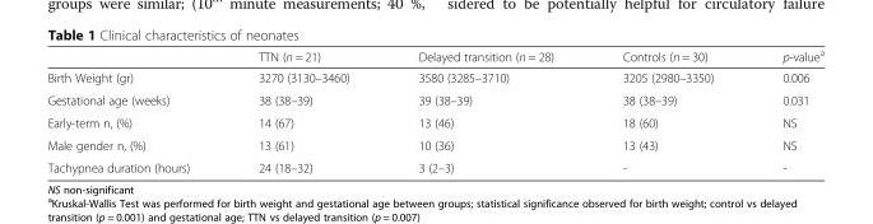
<table><thead><tr><td></td><td>TTN (n = 21)</td><td>Delayed transition (n = 28)</td><td>Controls (n = 30)</td><td>p-value<sup>a</sup></td></tr></thead><tbody><tr><td>Birth Weight (gr)</td><td>3270 (3130–3460)</td><td>3580 (3285–3710)</td><td>3205 (2980–3350)</td><td>0.006</td></tr><tr><td>Gestational age (weeks)</td><td>38 (38–39)</td><td>39 (38–39)</td><td>38 (38–39)</td><td>0.031</td></tr><tr><td>Early-term n, (%)</td><td>14 (67)</td><td>13 (46)</td><td>18 (60)</td><td>NS</td></tr><tr><td>Male gender n, (%)</td><td>13 (61)</td><td>10 (36)</td><td>13 (43)</td><td>NS</td></tr><tr><td>Tachypnea duration (hours)</td><td>24 (18–32)</td><td>3 (2–3)</td><td>-</td><td>-</td></tr></tbody></table>